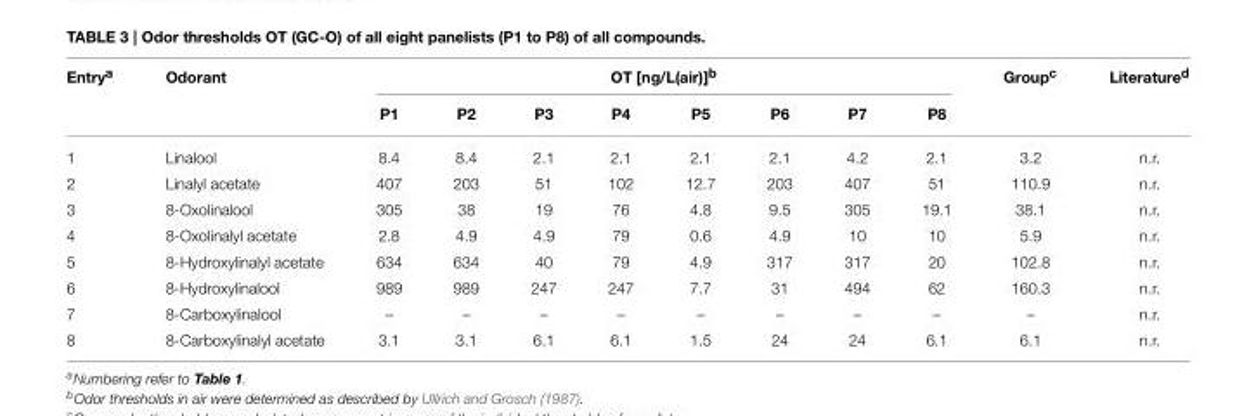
<table><thead><tr><td rowspan="2">Entry<sup>a</sup></td><td rowspan="2">Odorant</td><td colspan="8">OT [ng/L(air)]<sup>b</sup></td><td rowspan="2">Group<sup>c</sup></td><td rowspan="2">Literature<sup>d</sup></td></tr><tr><td>P1</td><td>P2</td><td>P3</td><td>P4</td><td>P5</td><td>P6</td><td>P7</td><td>P8</td></tr></thead><tbody><tr><td>1</td><td>Linalool</td><td>8.4</td><td>8.4</td><td>2.1</td><td>2.1</td><td>2.1</td><td>2.1</td><td>4.2</td><td>2.1</td><td>3.2</td><td>n.r.</td></tr><tr><td>2</td><td>Linalyl acetate</td><td>407</td><td>203</td><td>51</td><td>102</td><td>12.7</td><td>203</td><td>407</td><td>51</td><td>110.9</td><td>n.r.</td></tr><tr><td>3</td><td>8-Oxolinalool</td><td>305</td><td>38</td><td>19</td><td>76</td><td>4.8</td><td>9.5</td><td>305</td><td>19.1</td><td>38.1</td><td>n.r.</td></tr><tr><td>4</td><td>8-Oxolinalyl acetate</td><td>2.8</td><td>4.9</td><td>4.9</td><td>79</td><td>0.6</td><td>4.9</td><td>10</td><td>10</td><td>5.9</td><td>n.r.</td></tr><tr><td>5</td><td>8-Hydroxylinalyl acetate</td><td>634</td><td>634</td><td>40</td><td>79</td><td>4.9</td><td>317</td><td>317</td><td>20</td><td>102.8</td><td>n.r.</td></tr><tr><td>6</td><td>8-Hydroxylinalool</td><td>989</td><td>989</td><td>247</td><td>247</td><td>7.7</td><td>31</td><td>494</td><td>62</td><td>160.3</td><td>n.r.</td></tr><tr><td>7</td><td>8-Carboxylinalool</td><td>–</td><td>–</td><td>–</td><td>–</td><td>–</td><td>–</td><td>–</td><td>–</td><td>–</td><td>n.r.</td></tr><tr><td>8</td><td>8-Carboxylinalyl acetate</td><td>3.1</td><td>3.1</td><td>6.1</td><td>6.1</td><td>1.5</td><td>24</td><td>24</td><td>6.1</td><td>6.1</td><td>n.r.</td></tr></tbody></table>